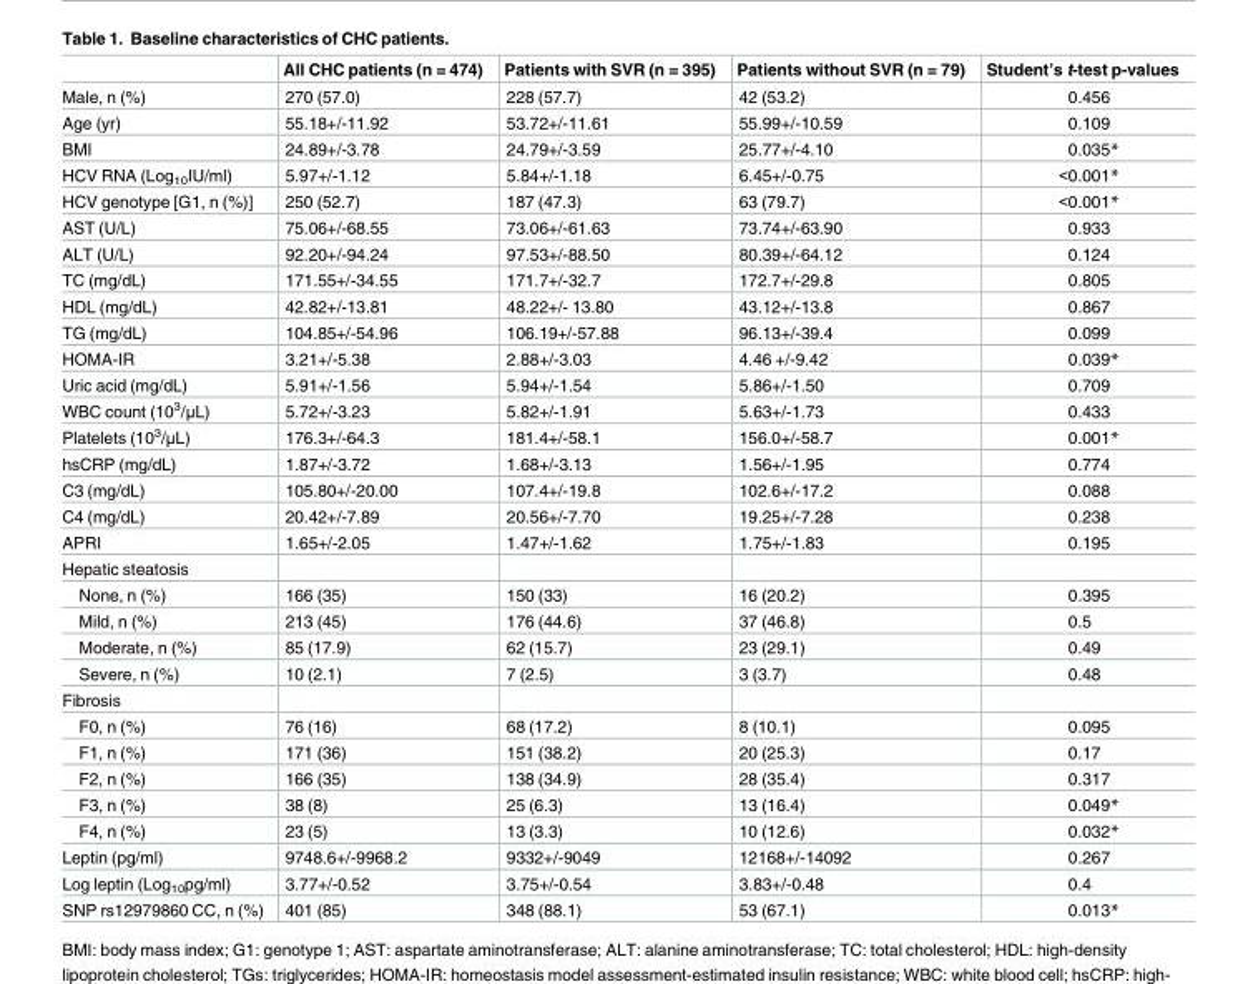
<table><thead><tr><td></td><td>All CHC patients (n = 474)</td><td>Patients with SVR (n = 395)</td><td>Patients without SVR (n = 79)</td><td>Student’s t-test p-values</td></tr></thead><tbody><tr><td>Male, n (%)</td><td>270 (57.0)</td><td>228 (57.7)</td><td>42 (53.2)</td><td>0.456</td></tr><tr><td>Age (yr)</td><td>55.18+/-11.92</td><td>53.72+/-11.61</td><td>55.99+/-10.59</td><td>0.109</td></tr><tr><td>BMI</td><td>24.89+/-3.78</td><td>24.79+/-3.59</td><td>25.77+/-4.10</td><td>0.035*</td></tr><tr><td>HCV RNA (Log<sub>10</sub>IU/ml)</td><td>5.97+/-1.12</td><td>5.84+/-1.18</td><td>6.45+/-0.75</td><td>&lt;0.001*</td></tr><tr><td>HCV genotype [G1, n (%)]</td><td>250 (52.7)</td><td>187 (47.3)</td><td>63 (79.7)</td><td>&lt;0.001*</td></tr><tr><td>AST (U/L)</td><td>75.06+/-68.55</td><td>73.06+/-61.63</td><td>73.74+/-63.90</td><td>0.933</td></tr><tr><td>ALT (U/L)</td><td>92.20+/-94.24</td><td>97.53+/-88.50</td><td>80.39+/-64.12</td><td>0.124</td></tr><tr><td>TC (mg/dL)</td><td>171.55+/-34.55</td><td>171.7+/-32.7</td><td>172.7+/-29.8</td><td>0.805</td></tr><tr><td>HDL (mg/dL)</td><td>42.82+/-13.81</td><td>48.22+/- 13.80</td><td>43.12+/-13.8</td><td>0.867</td></tr><tr><td>TG (mg/dL)</td><td>104.85+/-54.96</td><td>106.19+/-57.88</td><td>96.13+/-39.4</td><td>0.099</td></tr><tr><td>HOMA-IR</td><td>3.21+/-5.38</td><td>2.88+/-3.03</td><td>4.46 +/-9.42</td><td>0.039*</td></tr><tr><td>Uric acid (mg/dL)</td><td>5.91+/-1.56</td><td>5.94+/-1.54</td><td>5.86+/-1.50</td><td>0.709</td></tr><tr><td>WBC count (10<sup>3</sup>/μL)</td><td>5.72+/-3.23</td><td>5.82+/-1.91</td><td>5.63+/-1.73</td><td>0.433</td></tr><tr><td>Platelets (10<sup>3</sup>/μL)</td><td>176.3+/-64.3</td><td>181.4+/-58.1</td><td>156.0+/-58.7</td><td>0.001*</td></tr><tr><td>hsCRP (mg/dL)</td><td>1.87+/-3.72</td><td>1.68+/-3.13</td><td>1.56+/-1.95</td><td>0.774</td></tr><tr><td>C3 (mg/dL)</td><td>105.80+/-20.00</td><td>107.4+/-19.8</td><td>102.6+/-17.2</td><td>0.088</td></tr><tr><td>C4 (mg/dL)</td><td>20.42+/-7.89</td><td>20.56+/-7.70</td><td>19.25+/-7.28</td><td>0.238</td></tr><tr><td>APRI</td><td>1.65+/-2.05</td><td>1.47+/-1.62</td><td>1.75+/-1.83</td><td>0.195</td></tr><tr><td colspan="5">Hepatic steatosis</td></tr><tr><td>None, n (%)</td><td>166 (35)</td><td>150 (33)</td><td>16 (20.2)</td><td>0.395</td></tr><tr><td>Mild, n (%)</td><td>213 (45)</td><td>176 (44.6)</td><td>37 (46.8)</td><td>0.5</td></tr><tr><td>Moderate, n (%)</td><td>85 (17.9)</td><td>62 (15.7)</td><td>23 (29.1)</td><td>0.49</td></tr><tr><td>Severe, n (%)</td><td>10 (2.1)</td><td>7 (2.5)</td><td>3 (3.7)</td><td>0.48</td></tr><tr><td colspan="5">Fibrosis</td></tr><tr><td>F0, n (%)</td><td>76 (16)</td><td>68 (17.2)</td><td>8 (10.1)</td><td>0.095</td></tr><tr><td>F1, n (%)</td><td>171 (36)</td><td>151 (38.2)</td><td>20 (25.3)</td><td>0.17</td></tr><tr><td>F2, n (%)</td><td>166 (35)</td><td>138 (34.9)</td><td>28 (35.4)</td><td>0.317</td></tr><tr><td>F3, n (%)</td><td>38 (8)</td><td>25 (6.3)</td><td>13 (16.4)</td><td>0.049*</td></tr><tr><td>F4, n (%)</td><td>23 (5)</td><td>13 (3.3)</td><td>10 (12.6)</td><td>0.032*</td></tr><tr><td>Leptin (pg/ml)</td><td>9748.6+/-9968.2</td><td>9332+/-9049</td><td>12168+/-14092</td><td>0.267</td></tr><tr><td>Log leptin (Log<sub>10</sub>pg/ml)</td><td>3.77+/-0.52</td><td>3.75+/-0.54</td><td>3.83+/-0.48</td><td>0.4</td></tr><tr><td>SNP rs12979860 CC, n (%)</td><td>401 (85)</td><td>348 (88.1)</td><td>53 (67.1)</td><td>0.013*</td></tr></tbody></table>